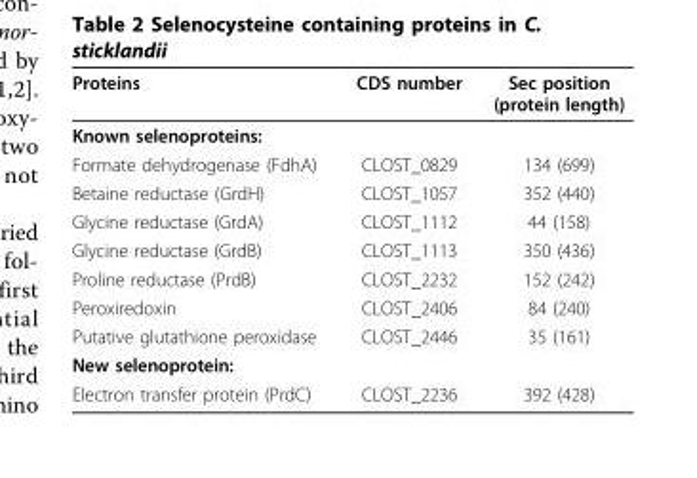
<table><thead><tr><td>Proteins</td><td>CDS number</td><td>Sec position (protein length)</td></tr></thead><tbody><tr><td colspan="3">Known selenoproteins:</td></tr><tr><td>Formate dehydrogenase (FdhA)</td><td>CLOST_0829</td><td>134 (699)</td></tr><tr><td>Betaine reductase (GrdH)</td><td>CLOST_1057</td><td>352 (440)</td></tr><tr><td>Glycine reductase (GrdA)</td><td>CLOST_1112</td><td>44 (158)</td></tr><tr><td>Glycine reductase (GrdB)</td><td>CLOST_1113</td><td>350 (436)</td></tr><tr><td>Proline reductase (PrdB)</td><td>CLOST_2232</td><td>152 (242)</td></tr><tr><td>Peroxiredoxin</td><td>CLOST_2406</td><td>84 (240)</td></tr><tr><td>Putative glutathione peroxidase</td><td>CLOST_2446</td><td>35 (161)</td></tr><tr><td colspan="3">New selenoprotein:</td></tr><tr><td>Electron transfer protein (PrdC)</td><td>CLOST_2236</td><td>392 (428)</td></tr></tbody></table>